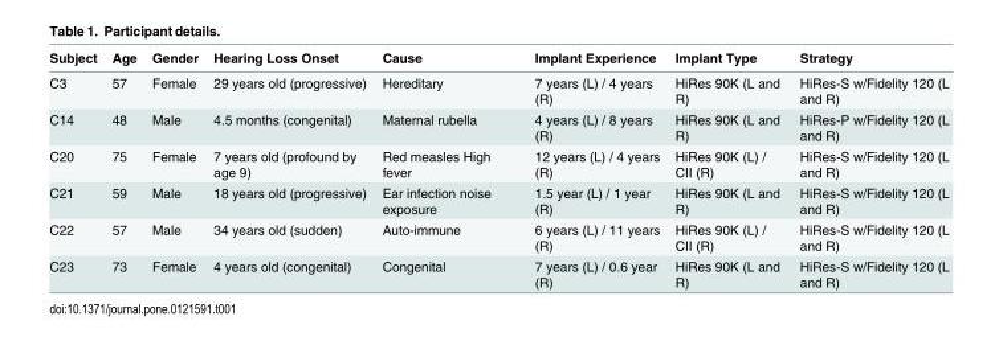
<table><thead><tr><td>Subject</td><td>Age</td><td>Gender</td><td>Hearing Loss Onset</td><td>Cause</td><td>Implant Experience</td><td>Implant Type</td><td>Strategy</td></tr></thead><tbody><tr><td>C3</td><td>57</td><td>Female</td><td>29 years old (progressive)</td><td>Hereditary</td><td>7 years (L) / 4 years (R)</td><td>HiRes 90K (L and R)</td><td>HiRes-S w/Fidelity 120 (L and R)</td></tr><tr><td>C14</td><td>48</td><td>Male</td><td>4.5 months (congenital)</td><td>Maternal rubella</td><td>4 years (L) / 8 years (R)</td><td>HiRes 90K (L and R)</td><td>HiRes-P w/Fidelity 120 (L and R)</td></tr><tr><td>C20</td><td>75</td><td>Female</td><td>7 years old (profound by age 9)</td><td>Red measles High fever</td><td>12 years (L) / 4 years (R)</td><td>HiRes 90K (L) / CII (R)</td><td>HiRes-S w/Fidelity 120 (L and R)</td></tr><tr><td>C21</td><td>59</td><td>Male</td><td>18 years old (progressive)</td><td>Ear infection noise exposure</td><td>1.5 year (L) / 1 year (R)</td><td>HiRes 90K (L and R)</td><td>HiRes-S w/Fidelity 120 (L and R)</td></tr><tr><td>C22</td><td>57</td><td>Male</td><td>34 years old (sudden)</td><td>Auto-immune</td><td>6 years (L) / 11 years (R)</td><td>HiRes 90K (L) / CII (R)</td><td>HiRes-S w/Fidelity 120 (L and R)</td></tr><tr><td>C23</td><td>73</td><td>Female</td><td>4 years old (congenital)</td><td>Congenital</td><td>7 years (L) / 0.6 year (R)</td><td>HiRes 90K (L and R)</td><td>HiRes-S w/Fidelity 120 (L and R)</td></tr></tbody></table>